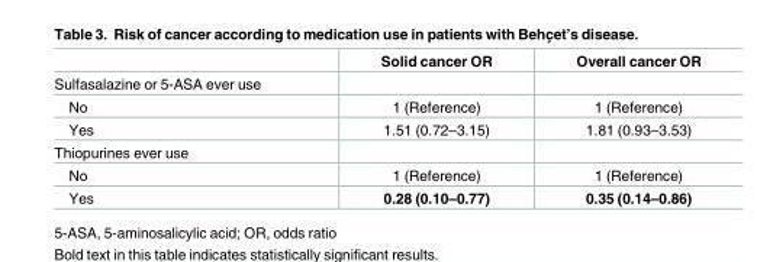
<table><thead><tr><td></td><td>Solid cancer OR</td><td>Overall cancer OR</td></tr></thead><tbody><tr><td colspan="3">Sulfasalazine or 5-ASA ever use</td></tr><tr><td>No</td><td>1 (Reference)</td><td>1 (Reference)</td></tr><tr><td>Yes</td><td>1.51 (0.72–3.15)</td><td>1.81 (0.93–3.53)</td></tr><tr><td colspan="3">Thiopurines ever use</td></tr><tr><td>No</td><td>1 (Reference)</td><td>1 (Reference)</td></tr><tr><td>Yes</td><td>0.28 (0.10–0.77)</td><td>0.35 (0.14–0.86)</td></tr></tbody></table>